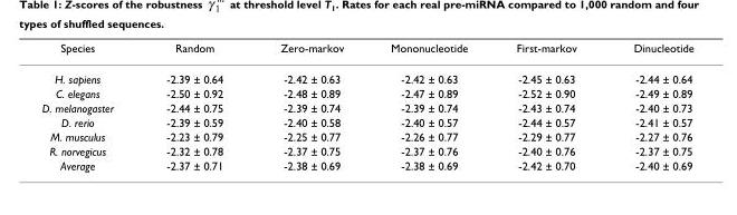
<table><thead><tr><td>Species</td><td>Random</td><td>Zero-markov</td><td>Mononucleotide</td><td>First-markov</td><td>Dinucleotide</td></tr></thead><tbody><tr><td>H. sapiens</td><td>-2.39 ± 0.64</td><td>-2.42 ± 0.63</td><td>-2.42 ± 0.63</td><td>-2.45 ± 0.63</td><td>-2.44 ± 0.64</td></tr><tr><td>C. elegans</td><td>-2.50 ± 0.92</td><td>-2.48 ± 0.89</td><td>-2.47 ± 0.89</td><td>-2.52 ± 0.90</td><td>-2.49 ± 0.89</td></tr><tr><td>D. melanogaster</td><td>-2.44 ± 0.75</td><td>-2.39 ± 0.74</td><td>-2.39 ± 0.74</td><td>-2.43 ± 0.74</td><td>-2.40 ± 0.73</td></tr><tr><td>D. rerio</td><td>-2.39 ± 0.59</td><td>-2.40 ± 0.58</td><td>-2.40 ± 0.57</td><td>-2.44 ± 0.57</td><td>-2.41 ± 0.57</td></tr><tr><td>M. musculus</td><td>-2.23 ± 0.79</td><td>-2.25 ± 0.77</td><td>-2.26 ± 0.77</td><td>-2.29 ± 0.77</td><td>-2.27 ± 0.76</td></tr><tr><td>R. norvegicus</td><td>-2.32 ± 0.78</td><td>-2.37 ± 0.75</td><td>-2.37 ± 0.76</td><td>-2.40 ± 0.76</td><td>-2.37 ± 0.75</td></tr><tr><td>Average</td><td>-2.37 ± 0.71</td><td>-2.38 ± 0.69</td><td>-2.38 ± 0.69</td><td>-2.42 ± 0.70</td><td>-2.40 ± 0.69</td></tr></tbody></table>